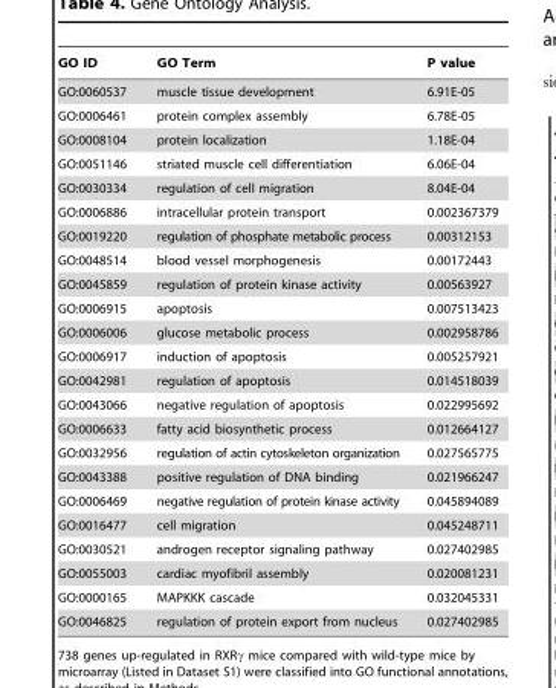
<table><thead><tr><td>GO ID</td><td>GO Term</td><td>P value</td></tr></thead><tbody><tr><td>GO:0060537</td><td>muscle tissue development</td><td>6.91E-05</td></tr><tr><td>GO:0006461</td><td>protein complex assembly</td><td>6.78E-05</td></tr><tr><td>GO:0008104</td><td>protein localization</td><td>1.18E-04</td></tr><tr><td>GO:0051146</td><td>striated muscle cell differentiation</td><td>6.06E-04</td></tr><tr><td>GO:0030334</td><td>regulation of cell migration</td><td>8.04E-04</td></tr><tr><td>GO:0006886</td><td>intracellular protein transport</td><td>0.002367379</td></tr><tr><td>GO:0019220</td><td>regulation of phosphate metabolic process</td><td>0.00312153</td></tr><tr><td>GO:0048514</td><td>blood vessel morphogenesis</td><td>0.00172443</td></tr><tr><td>GO:0045859</td><td>regulation of protein kinase activity</td><td>0.00563927</td></tr><tr><td>GO:0006915</td><td>apoptosis</td><td>0.007513423</td></tr><tr><td>GO:0006006</td><td>glucose metabolic process</td><td>0.002958786</td></tr><tr><td>GO:0006917</td><td>induction of apoptosis</td><td>0.005257921</td></tr><tr><td>GO:0042981</td><td>regulation of apoptosis</td><td>0.014518039</td></tr><tr><td>GO:0043066</td><td>negative regulation of apoptosis</td><td>0.022995692</td></tr><tr><td>GO:0006633</td><td>fatty acid biosynthetic process</td><td>0.012664127</td></tr><tr><td>GO:0032956</td><td>regulation of actin cytoskeleton organization</td><td>0.027565775</td></tr><tr><td>GO:0043388</td><td>positive regulation of DNA binding</td><td>0.021966247</td></tr><tr><td>GO:0006469</td><td>negative regulation of protein kinase activity</td><td>0.045894089</td></tr><tr><td>GO:0016477</td><td>cell migration</td><td>0.045248711</td></tr><tr><td>GO:0030521</td><td>androgen receptor signaling pathway</td><td>0.027402985</td></tr><tr><td>GO:0055003</td><td>cardiac myofibril assembly</td><td>0.020081231</td></tr><tr><td>GO:0000165</td><td>MAPKKK cascade</td><td>0.032045331</td></tr><tr><td>GO:0046825</td><td>regulation of protein export from nucleus</td><td>0.027402985</td></tr></tbody></table>